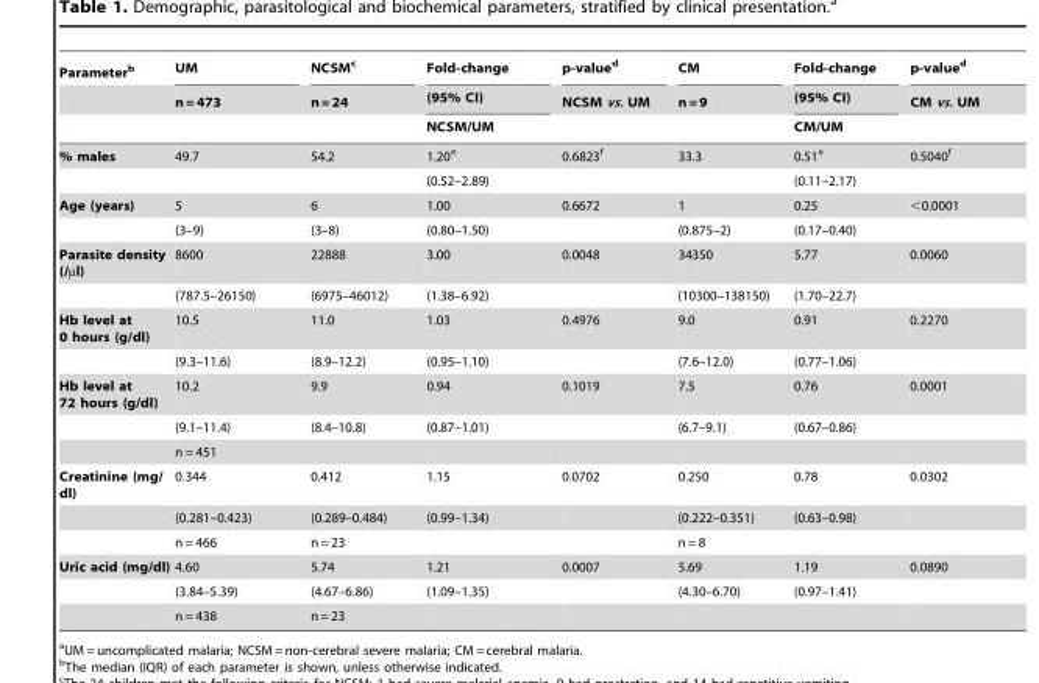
<table><thead><tr><td rowspan="3">Parameter<sup>b</sup></td><td rowspan="3">UM n = 473</td><td rowspan="3">NCSM<sup>c</sup> n = 24</td><td rowspan="3">Fold-change (95% CI) NCSM/UM</td><td rowspan="3">p-value<sup>d</sup> NCSM vs. UM</td><td rowspan="3">CM n = 9</td><td rowspan="3">Fold-change (95% CI) CM/UM</td><td rowspan="3">p-value<sup>d</sup> CM vs. UM</td></tr><tr></tr><tr></tr></thead><tbody><tr><td rowspan="2">% males</td><td>49.7</td><td>54.2</td><td>1.20<sup>e</sup></td><td>0.6823<sup>f</sup></td><td>33.3</td><td>0.51<sup>e</sup></td><td>0.5040<sup>f</sup></td></tr><tr><td></td><td></td><td>(0.52–2.89)</td><td></td><td></td><td>(0.11–2.17)</td><td></td></tr><tr><td rowspan="2">Age (years)</td><td>5</td><td>6</td><td>1.00</td><td>0.6672</td><td>1</td><td>0.25</td><td>&lt;0.0001</td></tr><tr><td>(3–9)</td><td>(3–8)</td><td>(0.80–1.50)</td><td></td><td>(0.875–2)</td><td>(0.17–0.40)</td><td></td></tr><tr><td rowspan="2">Parasite density (/µl)</td><td>8600</td><td>22888</td><td>3.00</td><td>0.0048</td><td>34350</td><td>5.77</td><td>0.0060</td></tr><tr><td>(787.5–26150)</td><td>(6975–46012)</td><td>(1.38–6.92)</td><td></td><td>(10300–138150)</td><td>(1.70–22.7)</td><td></td></tr><tr><td rowspan="2">Hb level at 0 hours (g/dl)</td><td>10.5</td><td>11.0</td><td>1.03</td><td>0.4976</td><td>9.0</td><td>0.91</td><td>0.2270</td></tr><tr><td>(9.3–11.6)</td><td>(8.9–12.2)</td><td>(0.95–1.10)</td><td></td><td>(7.6–12.0)</td><td>(0.77–1.06)</td><td></td></tr><tr><td rowspan="3">Hb level at 72 hours (g/dl)</td><td>10.2</td><td>9.9</td><td>0.94</td><td>0.1019</td><td>7.5</td><td>0.76</td><td>0.0001</td></tr><tr><td>(9.1–11.4)</td><td>(8.4–10.8)</td><td>(0.87–1.01)</td><td></td><td>(6.7–9.1)</td><td>(0.67–0.86)</td><td></td></tr><tr><td>n = 451</td><td></td><td></td><td></td><td></td><td></td><td></td></tr><tr><td rowspan="3">Creatinine (mg/ dl)</td><td>0.344</td><td>0.412</td><td>1.15</td><td>0.0702</td><td>0.250</td><td>0.78</td><td>0.0302</td></tr><tr><td>(0.281–0.423)</td><td>(0.289–0.484)</td><td>(0.99–1.34)</td><td></td><td>(0.222–0.351)</td><td>(0.63–0.98)</td><td></td></tr><tr><td>n = 466</td><td>n = 23</td><td></td><td></td><td>n = 8</td><td></td><td></td></tr><tr><td rowspan="3">Uric acid (mg/dl)</td><td>4.60</td><td>5.74</td><td>1.21</td><td>0.0007</td><td>5.69</td><td>1.19</td><td>0.0890</td></tr><tr><td>(3.84–5.39)</td><td>(4.67–6.86)</td><td>(1.09–1.35)</td><td></td><td>(4.30–6.70)</td><td>(0.97–1.41)</td><td></td></tr><tr><td>n = 438</td><td>n = 23</td><td></td><td></td><td></td><td></td><td></td></tr></tbody></table>